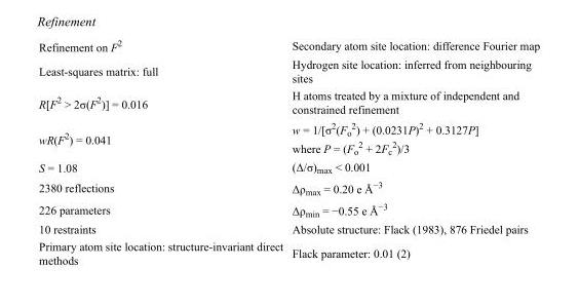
<table><tbody><tr><td>Refinement on F<sup>2</sup></td><td>Secondary atom site location: difference Fourier map</td></tr><tr><td>Least-squares matrix: full</td><td>Hydrogen site location: inferred from neighbouring sites</td></tr><tr><td>R[F<sup>2</sup> &gt; 2σ(F<sup>2</sup>)] = 0.016</td><td>H atoms treated by a mixture of independent and constrained refinement</td></tr><tr><td>wR(F<sup>2</sup>) = 0.041</td><td>w = 1/[σ<sup>2</sup>(F<sub>o</sub> <sup>2</sup>) + (0.0231P)<sup>2</sup> + 0.3127P] where P = (F<sub>o</sub> <sup>2</sup> + 2F<sub>c</sub> <sup>2</sup>)/3</td></tr><tr><td>S = 1.08</td><td>(Δ/σ)<sub>max</sub> &lt; 0.001</td></tr><tr><td>2380 reflections</td><td>Δρ<sub>max</sub> = 0.20 e Å<sup>−3</sup></td></tr><tr><td>226 parameters</td><td>Δρ<sub>min</sub> = −0.55 e Å<sup>−3</sup></td></tr><tr><td>10 restraints</td><td>Absolute structure: Flack (1983), 876 Friedel pairs</td></tr><tr><td>Primary atom site location: structure-invariant direct methods</td><td>Flack parameter: 0.01 (2)</td></tr></tbody></table>